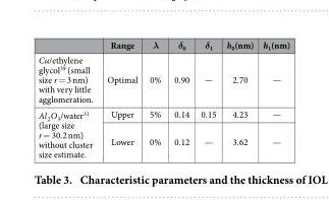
<table><thead><tr><td></td><td>Range</td><td>λ</td><td>δ<sub>0</sub></td><td>δ<sub>1</sub></td><td>h<sub>0</sub>(nm)</td><td>h<sub>1</sub>(nm)</td></tr></thead><tbody><tr><td>Cu/ethylene glycol<sup>39</sup> (small size r = 3 nm) with very little agglomeration.</td><td>Optimal</td><td>0%</td><td>0.90</td><td>—</td><td>2.70</td><td>—</td></tr><tr><td rowspan="2">Al O 2 3/water31 (large size r = 30.2 nm) without cluster size estimate.</td><td>Upper</td><td>5%</td><td>0.14</td><td>0.15</td><td>4.23</td><td>—</td></tr><tr><td>Lower</td><td>0%</td><td>0.12</td><td>—</td><td>3.62</td><td>—</td></tr></tbody></table>